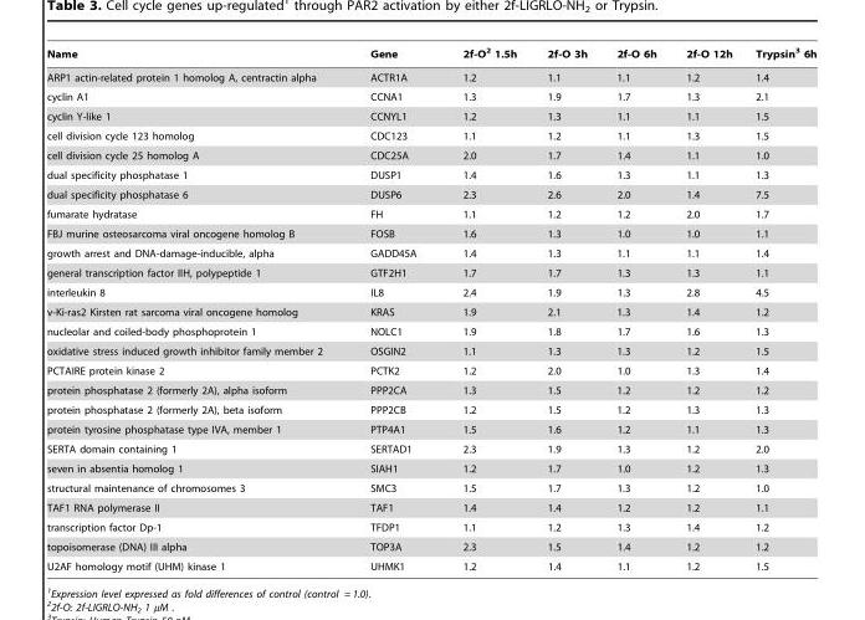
<table><thead><tr><td>Name</td><td>Gene</td><td>2f-O<sup>2</sup> 1.5h</td><td>2f-O 3h</td><td>2f-O 6h</td><td>2f-O 12h</td><td>Trypsin<sup>3</sup> 6h</td></tr></thead><tbody><tr><td>ARP1 actin-related protein 1 homolog A, centractin alpha</td><td>ACTR1A</td><td>1.2</td><td>1.1</td><td>1.1</td><td>1.2</td><td>1.4</td></tr><tr><td>cyclin A1</td><td>CCNA1</td><td>1.3</td><td>1.9</td><td>1.7</td><td>1.3</td><td>2.1</td></tr><tr><td>cyclin Y-like 1</td><td>CCNYL1</td><td>1.2</td><td>1.3</td><td>1.1</td><td>1.1</td><td>1.5</td></tr><tr><td>cell division cycle 123 homolog</td><td>CDC123</td><td>1.1</td><td>1.2</td><td>1.1</td><td>1.3</td><td>1.5</td></tr><tr><td>cell division cycle 25 homolog A</td><td>CDC25A</td><td>2.0</td><td>1.7</td><td>1.4</td><td>1.1</td><td>1.0</td></tr><tr><td>dual specificity phosphatase 1</td><td>DUSP1</td><td>1.4</td><td>1.6</td><td>1.3</td><td>1.1</td><td>1.3</td></tr><tr><td>dual specificity phosphatase 6</td><td>DUSP6</td><td>2.3</td><td>2.6</td><td>2.0</td><td>1.4</td><td>7.5</td></tr><tr><td>fumarate hydratase</td><td>FH</td><td>1.1</td><td>1.2</td><td>1.2</td><td>2.0</td><td>1.7</td></tr><tr><td>FBJ murine osteosarcoma viral oncogene homolog B</td><td>FOSB</td><td>1.6</td><td>1.3</td><td>1.0</td><td>1.0</td><td>1.1</td></tr><tr><td>growth arrest and DNA-damage-inducible, alpha</td><td>GADD45A</td><td>1.4</td><td>1.3</td><td>1.1</td><td>1.1</td><td>1.4</td></tr><tr><td>general transcription factor IIH, polypeptide 1</td><td>GTF2H1</td><td>1.7</td><td>1.7</td><td>1.3</td><td>1.3</td><td>1.1</td></tr><tr><td>interleukin 8</td><td>IL8</td><td>2.4</td><td>1.9</td><td>1.3</td><td>2.8</td><td>4.5</td></tr><tr><td>v-Ki-ras2 Kirsten rat sarcoma viral oncogene homolog</td><td>KRAS</td><td>1.9</td><td>2.1</td><td>1.3</td><td>1.4</td><td>1.2</td></tr><tr><td>nucleolar and coiled-body phosphoprotein 1</td><td>NOLC1</td><td>1.9</td><td>1.8</td><td>1.7</td><td>1.6</td><td>1.3</td></tr><tr><td>oxidative stress induced growth inhibitor family member 2</td><td>OSGIN2</td><td>1.1</td><td>1.3</td><td>1.3</td><td>1.2</td><td>1.5</td></tr><tr><td>PCTAIRE protein kinase 2</td><td>PCTK2</td><td>1.2</td><td>2.0</td><td>1.0</td><td>1.3</td><td>1.4</td></tr><tr><td>protein phosphatase 2 (formerly 2A), alpha isoform</td><td>PPP2CA</td><td>1.3</td><td>1.5</td><td>1.2</td><td>1.2</td><td>1.2</td></tr><tr><td>protein phosphatase 2 (formerly 2A), beta isoform</td><td>PPP2CB</td><td>1.2</td><td>1.5</td><td>1.2</td><td>1.3</td><td>1.3</td></tr><tr><td>protein tyrosine phosphatase type IVA, member 1</td><td>PTP4A1</td><td>1.5</td><td>1.6</td><td>1.2</td><td>1.1</td><td>1.3</td></tr><tr><td>SERTA domain containing 1</td><td>SERTAD1</td><td>2.3</td><td>1.9</td><td>1.3</td><td>1.2</td><td>2.0</td></tr><tr><td>seven in absentia homolog 1</td><td>SIAH1</td><td>1.2</td><td>1.7</td><td>1.0</td><td>1.2</td><td>1.3</td></tr><tr><td>structural maintenance of chromosomes 3</td><td>SMC3</td><td>1.5</td><td>1.7</td><td>1.3</td><td>1.2</td><td>1.0</td></tr><tr><td>TAF1 RNA polymerase II</td><td>TAF1</td><td>1.4</td><td>1.4</td><td>1.2</td><td>1.2</td><td>1.1</td></tr><tr><td>transcription factor Dp-1</td><td>TFDP1</td><td>1.1</td><td>1.2</td><td>1.3</td><td>1.4</td><td>1.2</td></tr><tr><td>topoisomerase (DNA) III alpha</td><td>TOP3A</td><td>2.3</td><td>1.5</td><td>1.4</td><td>1.2</td><td>1.2</td></tr><tr><td>U2AF homology motif (UHM) kinase 1</td><td>UHMK1</td><td>1.2</td><td>1.4</td><td>1.1</td><td>1.2</td><td>1.5</td></tr></tbody></table>